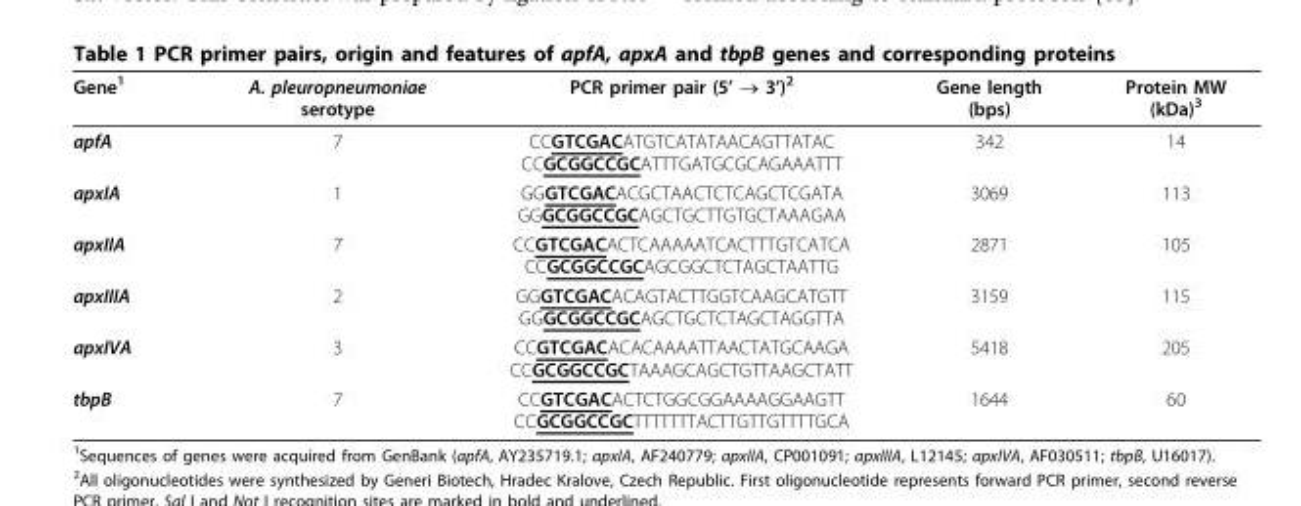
<table><thead><tr><td>Gene<sup>1</sup></td><td>A. pleuropneumoniae serotype</td><td>PCR primer pair (5’ → 3’)<sup>2</sup></td><td>Gene length (bps)</td><td>Protein MW (kDa)<sup>3</sup></td></tr></thead><tbody><tr><td>apfA</td><td>7</td><td>CCGTCGACATGTCATATAACAGTTATAC CCGCGGCCGCATTTGATGCGCAGAAATTT</td><td>342</td><td>14</td></tr><tr><td>apxIA</td><td>1</td><td>GGGTCGACACGCTAACTCTCAGCTCGATA GGGCGGCCGCAGCTGCTTGTGCTAAAGAA</td><td>3069</td><td>113</td></tr><tr><td>apxIIA</td><td>7</td><td>CCGTCGACACTCAAAAATCACTTTGTCATCA CCGCGGCCGCAGCGGCTCTAGCTAATTG</td><td>2871</td><td>105</td></tr><tr><td>apxIIIA</td><td>2</td><td>GGGTCGACACAGTACTTGGTCAAGCATGTT GGGCGGCCGCAGCTGCTCTAGCTAGGTTA</td><td>3159</td><td>115</td></tr><tr><td>apxIVA</td><td>3</td><td>CCGTCGACACACAAAATTAACTATGCAAGA CCGCGGCCGCTAAAGCAGCTGTTAAGCTATT</td><td>5418</td><td>205</td></tr><tr><td>tbpB</td><td>7</td><td>CCGTCGACACTCTGGCGGAAAAGGAAGTT CCGCGGCCGCTTTTTTTACTTGTTGTTTTGCA</td><td>1644</td><td>60</td></tr></tbody></table>